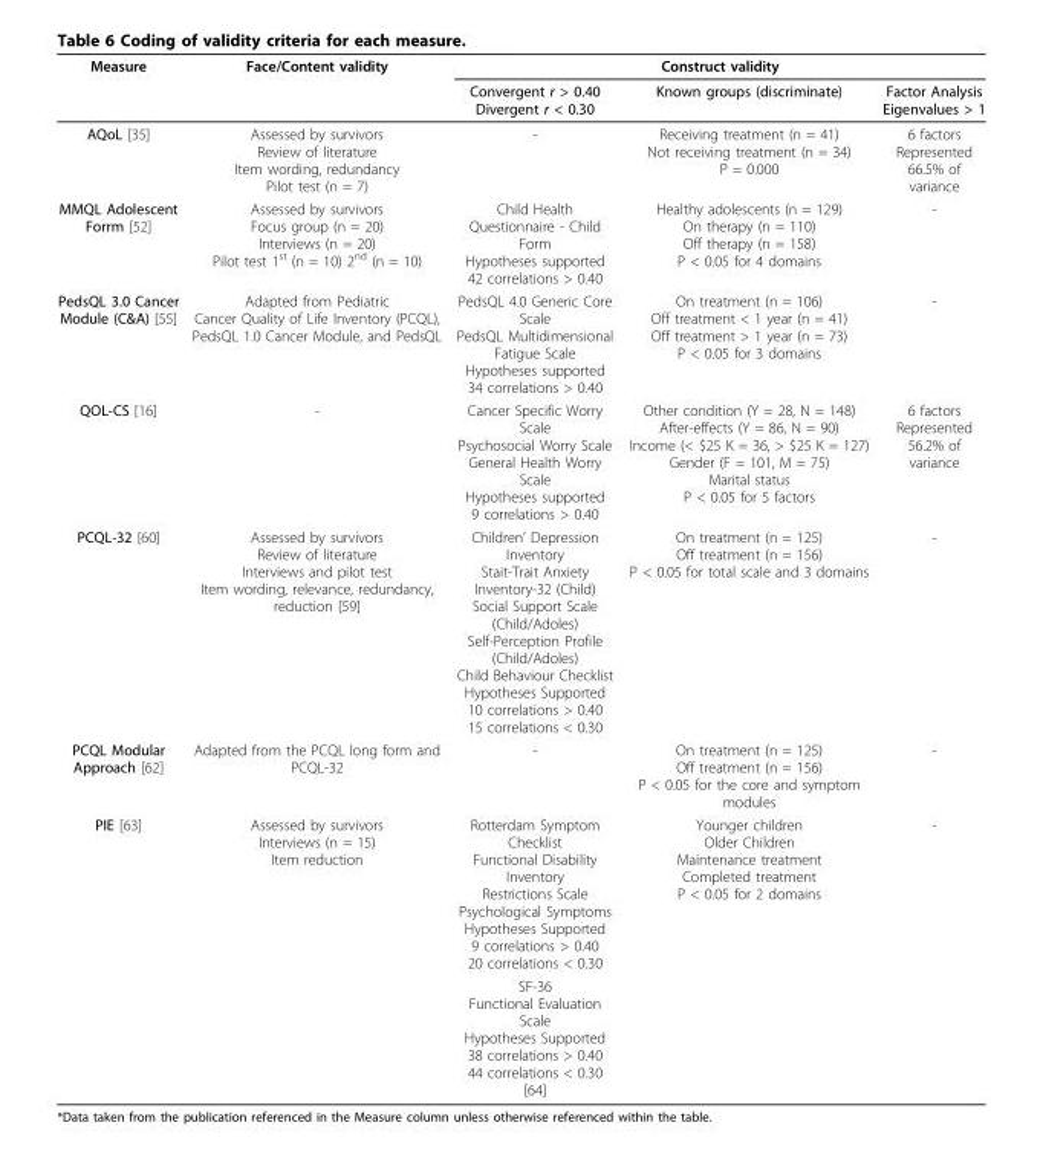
<table><thead><tr><td rowspan="2">Measure</td><td rowspan="2">Face/Content validity</td><td colspan="3">Construct validity</td></tr><tr><td>Convergent r &gt; 0.40 Divergent r &lt; 0.30</td><td>Known groups (discriminate)</td><td>Factor Analysis Eigenvalues &gt; 1</td></tr></thead><tbody><tr><td>AQoL [35]</td><td>Assessed by survivors Review of literature Item wording, redundancy Pilot test (n = 7)</td><td>-</td><td>Receiving treatment (n = 41) Not receiving treatment (n = 34) P = 0.000</td><td>6 factors Represented 66.5% of variance</td></tr><tr><td>MMQL Adolescent Forrm [52]</td><td>Assessed by survivors Focus group (n = 20) Interviews (n = 20) Pilot test 1<sup>st</sup> (n = 10) 2<sup>nd</sup> (n = 10)</td><td>Child Health Questionnaire - Child Form Hypotheses supported 42 correlations &gt; 0.40</td><td>Healthy adolescents (n = 129) On therapy (n = 110) Off therapy (n = 158) P &lt; 0.05 for 4 domains</td><td>-</td></tr><tr><td>PedsQL 3.0 Cancer Module (C&amp;A) [55]</td><td>Adapted from Pediatric Cancer Quality of Life Inventory (PCQL), PedsQL 1.0 Cancer Module, and PedsQL</td><td>PedsQL 4.0 Generic Core Scale PedsQL Multidimensional Fatigue Scale Hypotheses supported 34 correlations &gt; 0.40</td><td>On treatment (n = 106) Off treatment &lt; 1 year (n = 41) Off treatment &gt; 1 year (n = 73) P &lt; 0.05 for 3 domains</td><td>-</td></tr><tr><td>QOL-CS [16]</td><td>-</td><td>Cancer Specific Worry Scale Psychosocial Worry Scale General Health Worry Scale Hypotheses supported 9 correlations &gt; 0.40</td><td>Other condition (Y = 28, N = 148) After-effects (Y = 86, N = 90) Income (&lt; $25 K = 36, &gt; $25 K = 127) Gender (F = 101, M = 75) Marital status P &lt; 0.05 for 5 factors</td><td>6 factors Represented 56.2% of variance</td></tr><tr><td>PCQL-32 [60]</td><td>Assessed by survivors Review of literature Interviews and pilot test Item wording, relevance, redundancy, reduction [59]</td><td>Children’ Depression Inventory Stait-Trait Anxiety Inventory-32 (Child) Social Support Scale (Child/Adoles) Self-Perception Profile (Child/Adoles) Child Behaviour Checklist Hypotheses Supported 10 correlations &gt; 0.40 15 correlations &lt; 0.30</td><td>On treatment (n = 125) Off treatment (n = 156) P &lt; 0.05 for total scale and 3 domains</td><td>-</td></tr><tr><td>PCQL Modular Approach [62]</td><td>Adapted from the PCQL long form and PCQL-32</td><td>-</td><td>On treatment (n = 125) Off treatment (n = 156) P &lt; 0.05 for the core and symptom modules</td><td>-</td></tr><tr><td rowspan="2">PIE [63]</td><td>Assessed by survivors Interviews (n = 15) Item reduction</td><td>Rotterdam Symptom Checklist Functional Disability Inventory Restrictions Scale Psychological Symptoms Hypotheses Supported 9 correlations &gt; 0.40 20 correlations &lt; 0.30</td><td>Younger children Older Children Maintenance treatment Completed treatment P &lt; 0.05 for 2 domains</td><td>-</td></tr><tr><td></td><td>SF-36 Functional Evaluation Scale Hypotheses Supported 38 correlations &gt; 0.40 44 correlations &lt; 0.30 [64]</td><td></td><td></td></tr></tbody></table>